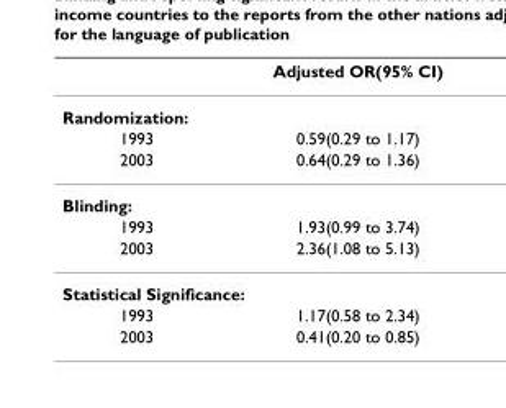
<table><thead><tr><td></td><td>Adjusted OR(95% CI)</td></tr></thead><tbody><tr><td colspan="2">Randomization:</td></tr><tr><td>1993</td><td>0.59(0.29 to 1.17)</td></tr><tr><td>2003</td><td>0.64(0.29 to 1.36)</td></tr><tr><td colspan="2">Blinding:</td></tr><tr><td>1993</td><td>1.93(0.99 to 3.74)</td></tr><tr><td>2003</td><td>2.36(1.08 to 5.13)</td></tr><tr><td colspan="2">Statistical Significance:</td></tr><tr><td>1993</td><td>1.17(0.58 to 2.34)</td></tr><tr><td>2003</td><td>0.41(0.20 to 0.85)</td></tr></tbody></table>